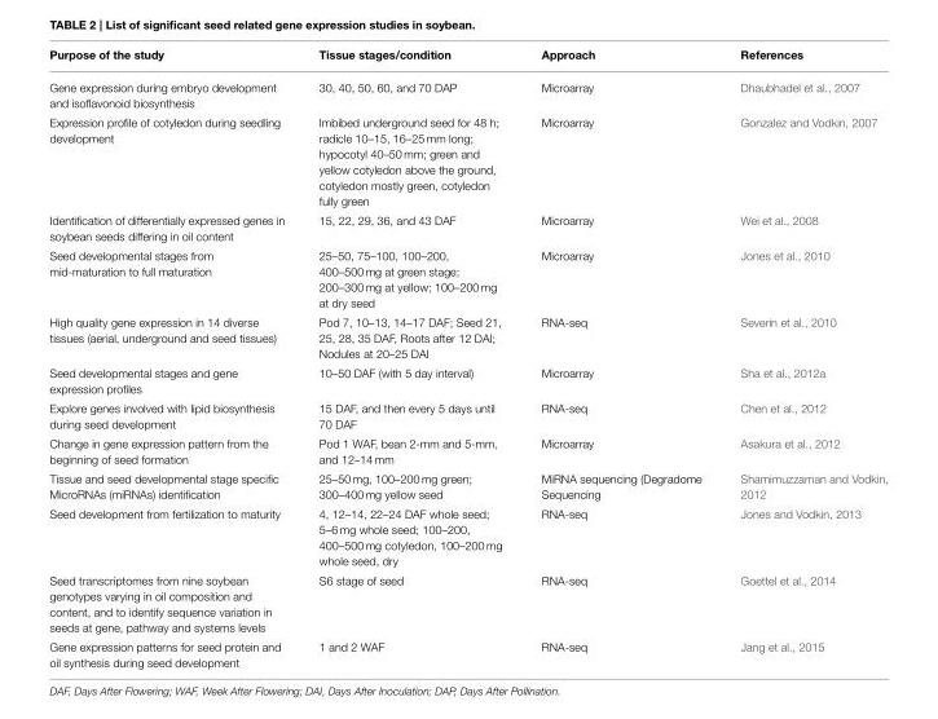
<table><thead><tr><td>Purpose of the study</td><td>Tissue stages/condition</td><td>Approach</td><td>References</td></tr></thead><tbody><tr><td>Gene expression during embryo development and isoflavonoid biosynthesis</td><td>30, 40, 50, 60, and 70 DAP</td><td>Microarray</td><td>Dhaubhadel et al., 2007</td></tr><tr><td>Expression profile of cotyledon during seedling development</td><td>Imbibed underground seed for 48 h; radicle 10–15, 16–25 mm long; hypocotyl 40–50 mm; green and yellow cotyledon above the ground, cotyledon mostly green, cotyledon fully green</td><td>Microarray</td><td>Gonzalez and Vodkin, 2007</td></tr><tr><td>Identification of differentially expressed genes in soybean seeds differing in oil content</td><td>15, 22, 29, 36, and 43 DAF</td><td>Microarray</td><td>Wei et al., 2008</td></tr><tr><td>Seed developmental stages from mid-maturation to full maturation</td><td>25–50, 75–100, 100–200, 400–500 mg at green stage; 200–300 mg at yellow; 100–200 mg at dry seed</td><td>Microarray</td><td>Jones et al., 2010</td></tr><tr><td>High quality gene expression in 14 diverse tissues (aerial, underground and seed tissues)</td><td>Pod 7, 10–13, 14–17 DAF; Seed 21, 25, 28, 35 DAF, Roots after 12 DAI; Nodules at 20–25 DAI</td><td>RNA-seq</td><td>Severin et al., 2010</td></tr><tr><td>Seed developmental stages and gene expression profiles</td><td>10–50 DAF (with 5 day interval)</td><td>Microarray</td><td>Sha et al., 2012a</td></tr><tr><td>Explore genes involved with lipid biosynthesis during seed development</td><td>15 DAF, and then every 5 days until 70 DAF</td><td>RNA-seq</td><td>Chen et al., 2012</td></tr><tr><td>Change in gene expression pattern from the beginning of seed formation</td><td>Pod 1 WAF, bean 2-mm and 5-mm, and 12–14 mm</td><td>Microarray</td><td>Asakura et al., 2012</td></tr><tr><td>Tissue and seed developmental stage specific MicroRNAs (miRNAs) identification</td><td>25–50 mg, 100–200 mg green; 300–400 mg yellow seed</td><td>MiRNA sequencing (Degradome Sequencing</td><td>Shamimuzzaman and Vodkin, 2012</td></tr><tr><td>Seed development from fertilization to maturity</td><td>4, 12–14, 22–24 DAF whole seed; 5–6 mg whole seed; 100–200, 400–500 mg cotyledon, 100–200 mg whole seed, dry</td><td>RNA-seq</td><td>Jones and Vodkin, 2013</td></tr><tr><td>Seed transcriptomes from nine soybean genotypes varying in oil composition and content, and to identify sequence variation in seeds at gene, pathway and systems levels</td><td>S6 stage of seed</td><td>RNA-seq</td><td>Goettel et al., 2014</td></tr><tr><td>Gene expression patterns for seed protein and oil synthesis during seed development</td><td>1 and 2 WAF</td><td>RNA-seq</td><td>Jang et al., 2015</td></tr></tbody></table>